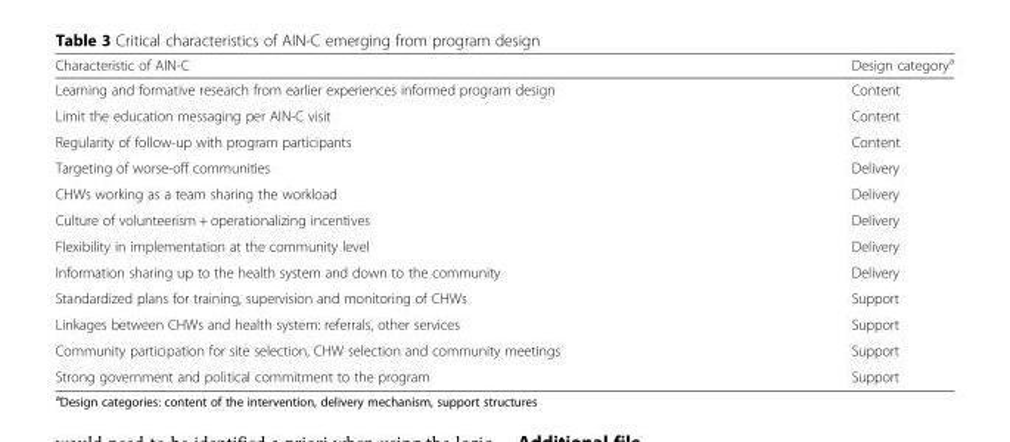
<table><thead><tr><td>Characteristic of AIN-C</td><td>Design category<sup>a</sup></td></tr></thead><tbody><tr><td>Learning and formative research from earlier experiences informed program design</td><td>Content</td></tr><tr><td>Limit the education messaging per AIN-C visit</td><td>Content</td></tr><tr><td>Regularity of follow-up with program participants</td><td>Content</td></tr><tr><td>Targeting of worse-off communities</td><td>Delivery</td></tr><tr><td>CHWs working as a team sharing the workload</td><td>Delivery</td></tr><tr><td>Culture of volunteerism + operationalizing incentives</td><td>Delivery</td></tr><tr><td>Flexibility in implementation at the community level</td><td>Delivery</td></tr><tr><td>Information sharing up to the health system and down to the community</td><td>Delivery</td></tr><tr><td>Standardized plans for training, supervision and monitoring of CHWs</td><td>Support</td></tr><tr><td>Linkages between CHWs and health system: referrals, other services</td><td>Support</td></tr><tr><td>Community participation for site selection, CHW selection and community meetings</td><td>Support</td></tr><tr><td>Strong government and political commitment to the program</td><td>Support</td></tr></tbody></table>